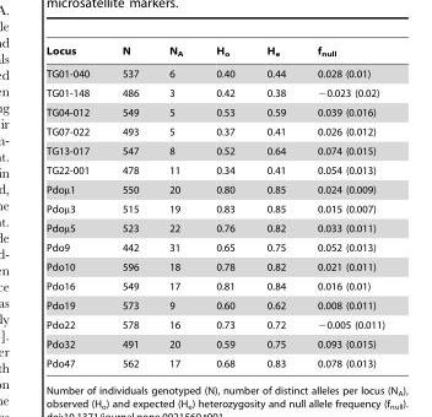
<table><thead><tr><td>Locus</td><td>N</td><td>N<sub>A</sub></td><td>H<sub>o</sub></td><td>H<sub>e</sub></td><td>f<sub>null</sub></td></tr></thead><tbody><tr><td>TG01-040</td><td>537</td><td>6</td><td>0.40</td><td>0.44</td><td>0.028 (0.01)</td></tr><tr><td>TG01-148</td><td>486</td><td>3</td><td>0.42</td><td>0.38</td><td>−0.023 (0.02)</td></tr><tr><td>TG04-012</td><td>549</td><td>5</td><td>0.53</td><td>0.59</td><td>0.039 (0.016)</td></tr><tr><td>TG07-022</td><td>493</td><td>5</td><td>0.37</td><td>0.41</td><td>0.026 (0.012)</td></tr><tr><td>TG13-017</td><td>547</td><td>8</td><td>0.52</td><td>0.64</td><td>0.074 (0.015)</td></tr><tr><td>TG22-001</td><td>478</td><td>11</td><td>0.34</td><td>0.41</td><td>0.054 (0.013)</td></tr><tr><td>Pdoµ1</td><td>550</td><td>20</td><td>0.80</td><td>0.85</td><td>0.024 (0.009)</td></tr><tr><td>Pdoµ3</td><td>515</td><td>19</td><td>0.83</td><td>0.85</td><td>0.015 (0.007)</td></tr><tr><td>Pdoµ5</td><td>523</td><td>22</td><td>0.76</td><td>0.82</td><td>0.033 (0.011)</td></tr><tr><td>Pdo9</td><td>442</td><td>31</td><td>0.65</td><td>0.75</td><td>0.052 (0.013)</td></tr><tr><td>Pdo10</td><td>596</td><td>18</td><td>0.78</td><td>0.82</td><td>0.021 (0.011)</td></tr><tr><td>Pdo16</td><td>549</td><td>17</td><td>0.81</td><td>0.84</td><td>0.016 (0.01)</td></tr><tr><td>Pdo19</td><td>573</td><td>9</td><td>0.60</td><td>0.62</td><td>0.008 (0.011)</td></tr><tr><td>Pdo22</td><td>578</td><td>16</td><td>0.73</td><td>0.72</td><td>−0.005 (0.011)</td></tr><tr><td>Pdo32</td><td>491</td><td>20</td><td>0.59</td><td>0.75</td><td>0.093 (0.015)</td></tr><tr><td>Pdo47</td><td>562</td><td>17</td><td>0.68</td><td>0.83</td><td>0.078 (0.013)</td></tr></tbody></table>